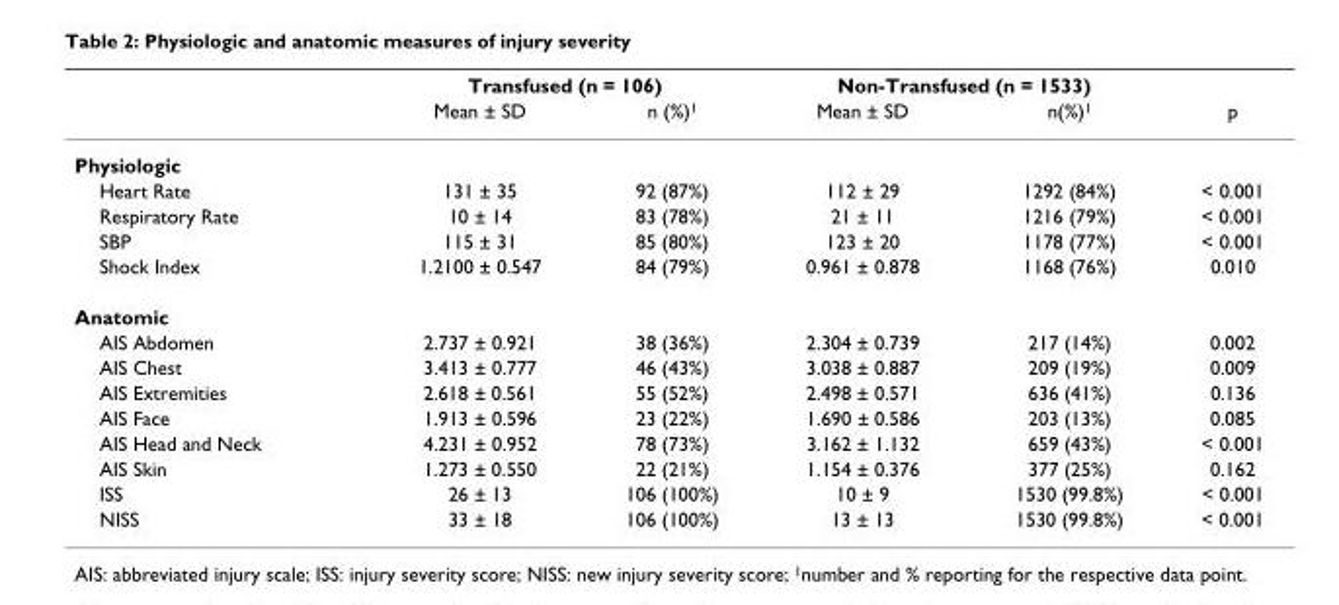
<table><thead><tr><td rowspan="2"></td><td colspan="2">Transfused (n = 106)</td><td colspan="2">Non-Transfused (n = 1533)</td><td rowspan="2">p</td></tr><tr><td>Mean ± SD</td><td>n (%)<sup>1</sup></td><td>Mean ± SD</td><td>n(%)<sup>1</sup></td></tr></thead><tbody><tr><td colspan="6">Physiologic</td></tr><tr><td>Heart Rate</td><td>131 ± 35</td><td>92 (87%)</td><td>112 ± 29</td><td>1292 (84%)</td><td>&lt; 0.001</td></tr><tr><td>Respiratory Rate</td><td>10 ± 14</td><td>83 (78%)</td><td>21 ± 11</td><td>1216 (79%)</td><td>&lt; 0.001</td></tr><tr><td>SBP</td><td>115 ± 31</td><td>85 (80%)</td><td>123 ± 20</td><td>1178 (77%)</td><td>&lt; 0.001</td></tr><tr><td>Shock Index</td><td>1.2100 ± 0.547</td><td>84 (79%)</td><td>0.961 ± 0.878</td><td>1168 (76%)</td><td>0.010</td></tr><tr><td colspan="6">Anatomic</td></tr><tr><td>AIS Abdomen</td><td>2.737 ± 0.921</td><td>38 (36%)</td><td>2.304 ± 0.739</td><td>217 (14%)</td><td>0.002</td></tr><tr><td>AIS Chest</td><td>3.413 ± 0.777</td><td>46 (43%)</td><td>3.038 ± 0.887</td><td>209 (19%)</td><td>0.009</td></tr><tr><td>AIS Extremities</td><td>2.618 ± 0.561</td><td>55 (52%)</td><td>2.498 ± 0.571</td><td>636 (41%)</td><td>0.136</td></tr><tr><td>AIS Face</td><td>1.913 ± 0.596</td><td>23 (22%)</td><td>1.690 ± 0.586</td><td>203 (13%)</td><td>0.085</td></tr><tr><td>AIS Head and Neck</td><td>4.231 ± 0.952</td><td>78 (73%)</td><td>3.162 ± 1.132</td><td>659 (43%)</td><td>&lt; 0.001</td></tr><tr><td>AIS Skin</td><td>1.273 ± 0.550</td><td>22 (21%)</td><td>1.154 ± 0.376</td><td>377 (25%)</td><td>0.162</td></tr><tr><td>ISS</td><td>26 ± 13</td><td>106 (100%)</td><td>10 ± 9</td><td>1530 (99.8%)</td><td>&lt; 0.001</td></tr><tr><td>NISS</td><td>33 ± 18</td><td>106 (100%)</td><td>13 ± 13</td><td>1530 (99.8%)</td><td>&lt; 0.001</td></tr></tbody></table>